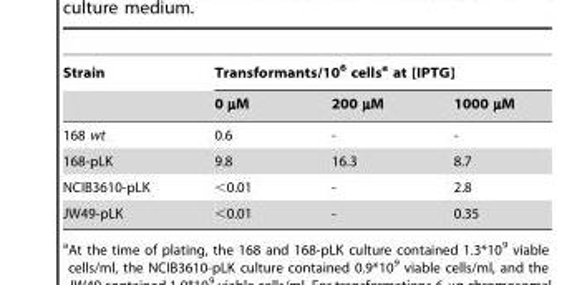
<table><thead><tr><td rowspan="2">Strain</td><td colspan="3">Transformants/10<sup>6</sup> cells<sup>a</sup> at [IPTG]</td></tr><tr><td>0 µM</td><td>200 µM</td><td>1000 µM</td></tr></thead><tbody><tr><td>168 wt</td><td>0.6</td><td>-</td><td>-</td></tr><tr><td>168-pLK</td><td>9.8</td><td>16.3</td><td>8.7</td></tr><tr><td>NCIB3610-pLK</td><td>&lt;0.01</td><td>-</td><td>2.8</td></tr><tr><td>JW49-pLK</td><td>&lt;0.01</td><td>-</td><td>0.35</td></tr></tbody></table>